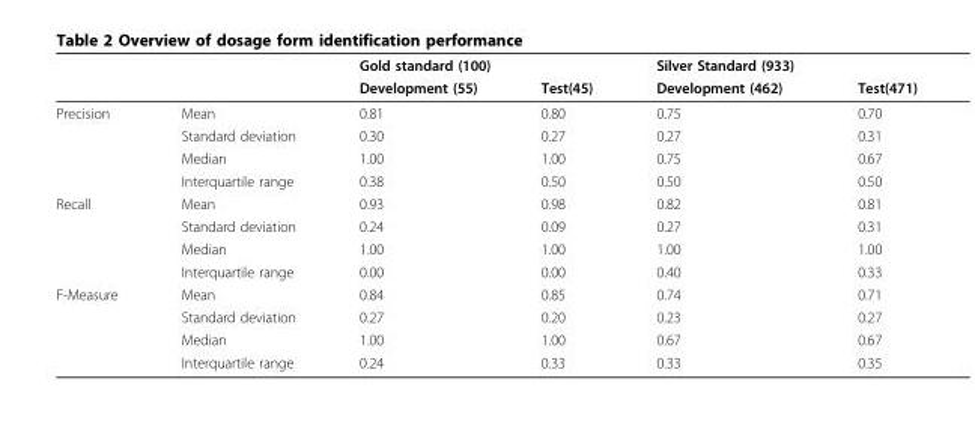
<table><thead><tr><td rowspan="2"></td><td rowspan="2"></td><td colspan="2">Gold standard (100)</td><td rowspan="2">Silver Standard (933) Development (462)</td><td rowspan="2">Test(471)</td></tr><tr><td>Development (55)</td><td>Test(45)</td></tr></thead><tbody><tr><td rowspan="4">Precision</td><td>Mean</td><td>0.81</td><td>0.80</td><td>0.75</td><td>0.70</td></tr><tr><td>Standard deviation</td><td>0.30</td><td>0.27</td><td>0.27</td><td>0.31</td></tr><tr><td>Median</td><td>1.00</td><td>1.00</td><td>0.75</td><td>0.67</td></tr><tr><td>Interquartile range</td><td>0.38</td><td>0.50</td><td>0.50</td><td>0.50</td></tr><tr><td rowspan="4">Recall</td><td>Mean</td><td>0.93</td><td>0.98</td><td>0.82</td><td>0.81</td></tr><tr><td>Standard deviation</td><td>0.24</td><td>0.09</td><td>0.27</td><td>0.31</td></tr><tr><td>Median</td><td>1.00</td><td>1.00</td><td>1.00</td><td>1.00</td></tr><tr><td>Interquartile range</td><td>0.00</td><td>0.00</td><td>0.40</td><td>0.33</td></tr><tr><td rowspan="4">F-Measure</td><td>Mean</td><td>0.84</td><td>0.85</td><td>0.74</td><td>0.71</td></tr><tr><td>Standard deviation</td><td>0.27</td><td>0.20</td><td>0.23</td><td>0.27</td></tr><tr><td>Median</td><td>1.00</td><td>1.00</td><td>0.67</td><td>0.67</td></tr><tr><td>Interquartile range</td><td>0.24</td><td>0.33</td><td>0.33</td><td>0.35</td></tr></tbody></table>